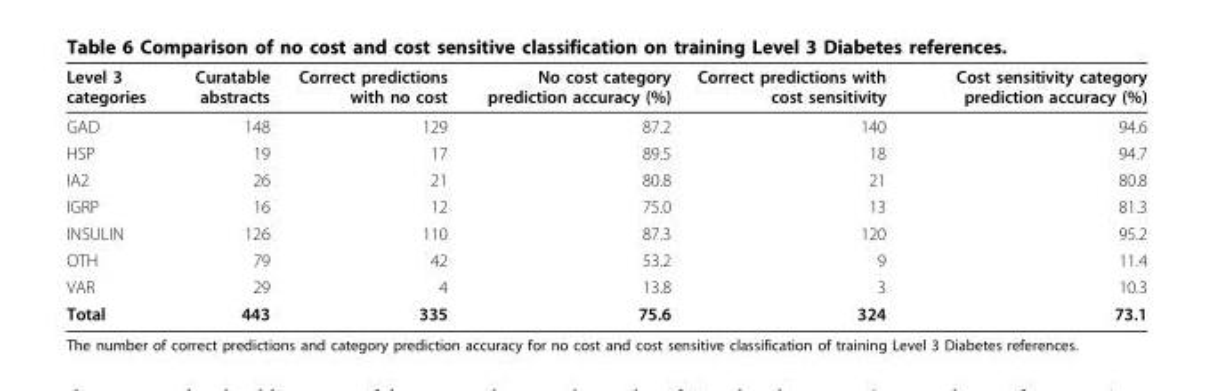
<table><thead><tr><td>Level 3 categories</td><td>Curatable abstracts</td><td>Correct predictions with no cost</td><td>No cost category prediction accuracy (%)</td><td>Correct predictions with cost sensitivity</td><td>Cost sensitivity category prediction accuracy (%)</td></tr></thead><tbody><tr><td>GAD</td><td>148</td><td>129</td><td>87.2</td><td>140</td><td>94.6</td></tr><tr><td>HSP</td><td>19</td><td>17</td><td>89.5</td><td>18</td><td>94.7</td></tr><tr><td>IA2</td><td>26</td><td>21</td><td>80.8</td><td>21</td><td>80.8</td></tr><tr><td>IGRP</td><td>16</td><td>12</td><td>75.0</td><td>13</td><td>81.3</td></tr><tr><td>INSULIN</td><td>126</td><td>110</td><td>87.3</td><td>120</td><td>95.2</td></tr><tr><td>OTH</td><td>79</td><td>42</td><td>53.2</td><td>9</td><td>11.4</td></tr><tr><td>VAR</td><td>29</td><td>4</td><td>13.8</td><td>3</td><td>10.3</td></tr><tr><td>Total</td><td>443</td><td>335</td><td>75.6</td><td>324</td><td>73.1</td></tr></tbody></table>